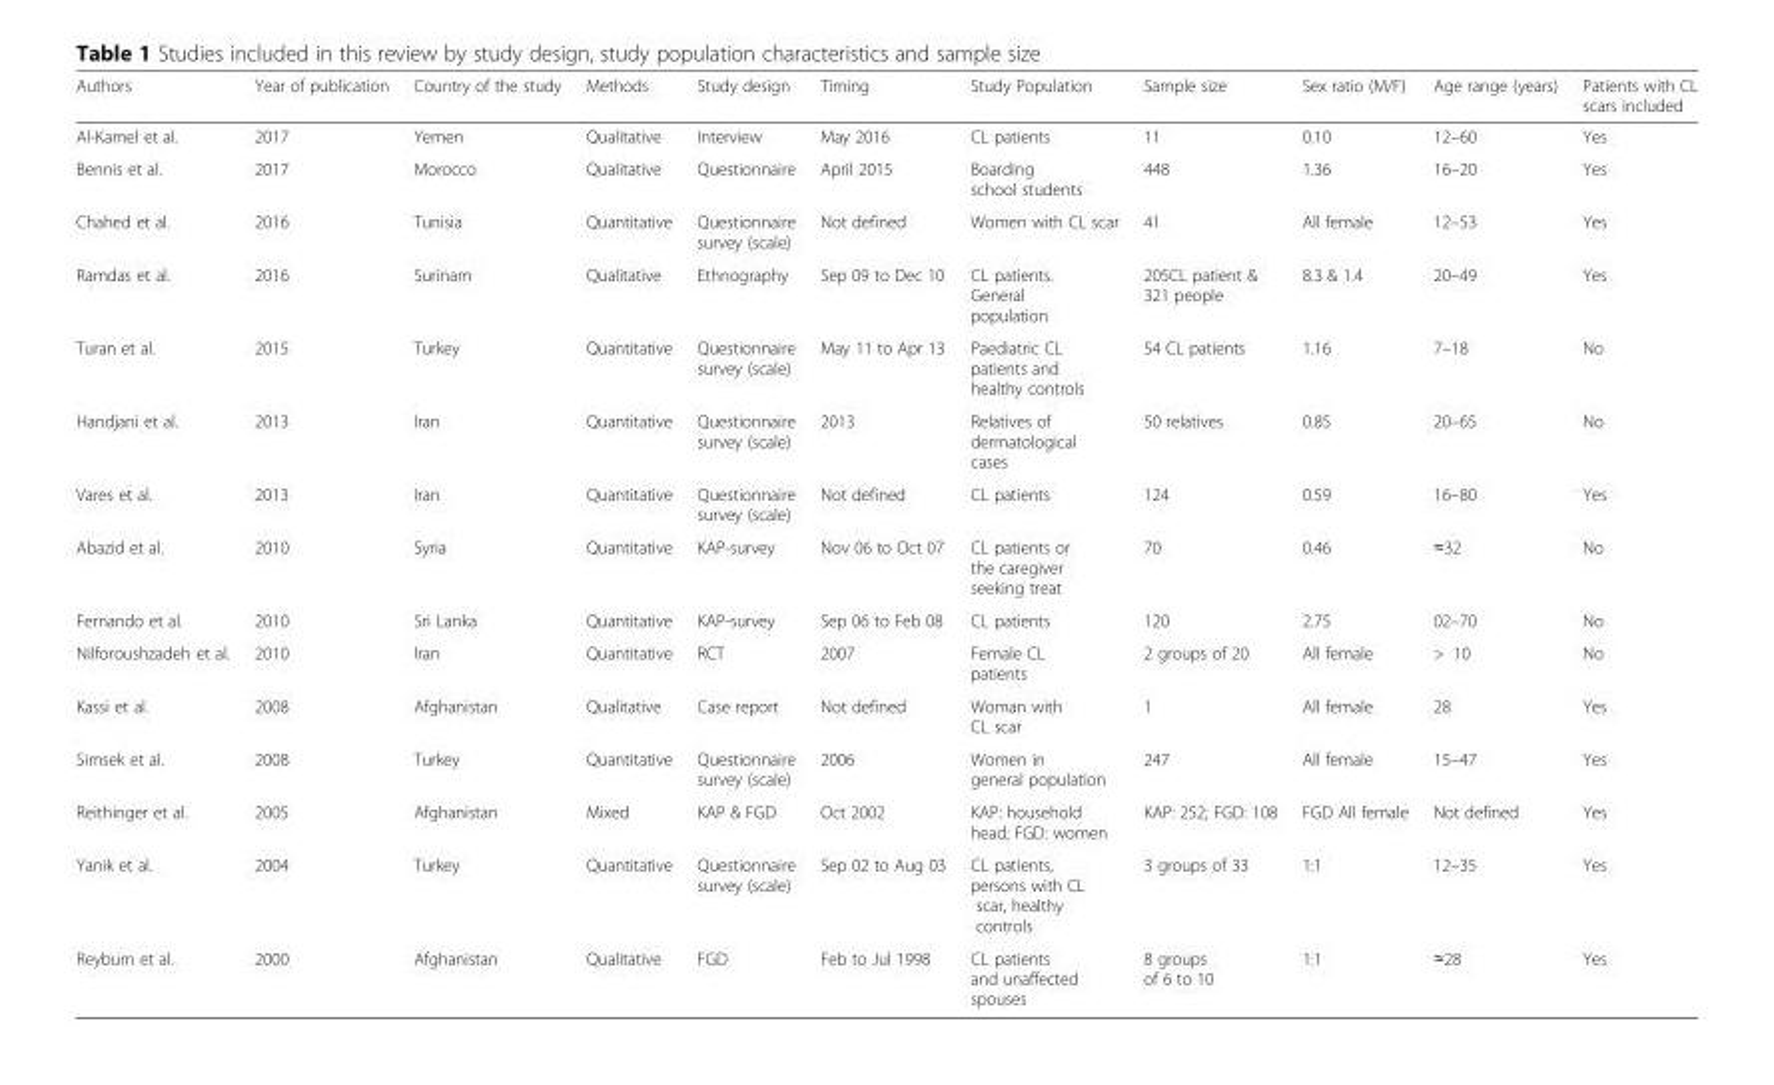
<table><thead><tr><td>Authors</td><td>Year of publication</td><td>Country of the study</td><td>Methods</td><td>Study design</td><td>Timing</td><td>Study Population</td><td>Sample size</td><td>Sex ratio (M/F)</td><td>Age range (years)</td><td>Patients with CL scars included</td></tr></thead><tbody><tr><td>Al-Kamel et al.</td><td>2017</td><td>Yemen</td><td>Qualitative</td><td>Interview</td><td>May 2016</td><td>CL patients</td><td>11</td><td>0.10</td><td>12–60</td><td>Yes</td></tr><tr><td>Bennis et al.</td><td>2017</td><td>Morocco</td><td>Qualitative</td><td>Questionnaire</td><td>April 2015</td><td>Boarding school students</td><td>448</td><td>1.36</td><td>16–20</td><td>Yes</td></tr><tr><td>Chahed et al.</td><td>2016</td><td>Tunisia</td><td>Quantitative</td><td>Questionnaire survey (scale)</td><td>Not defined</td><td>Women with CL scar</td><td>41</td><td>All female</td><td>12–53</td><td>Yes</td></tr><tr><td>Ramdas et al.</td><td>2016</td><td>Surinam</td><td>Qualitative</td><td>Ethnography</td><td>Sep 09 to Dec 10</td><td>CL patients. General population</td><td>205CL patient &amp; 321 people</td><td>8.3 &amp; 1.4</td><td>20–49</td><td>Yes</td></tr><tr><td>Turan et al.</td><td>2015</td><td>Turkey</td><td>Quantitative</td><td>Questionnaire survey (scale)</td><td>May 11 to Apr 13</td><td>Paediatric CL patients and healthy controls</td><td>54 CL patients</td><td>1.16</td><td>7–18</td><td>No</td></tr><tr><td>Handjani et al.</td><td>2013</td><td>Iran</td><td>Quantitative</td><td>Questionnaire survey (scale)</td><td>2013</td><td>Relatives of dermatological cases</td><td>50 relatives</td><td>0.85</td><td>20–65</td><td>No</td></tr><tr><td>Vares et al.</td><td>2013</td><td>Iran</td><td>Quantitative</td><td>Questionnaire survey (scale)</td><td>Not defined</td><td>CL patients</td><td>124</td><td>0.59</td><td>16–80</td><td>Yes</td></tr><tr><td>Abazid et al.</td><td>2010</td><td>Syria</td><td>Quantitative</td><td>KAP-survey</td><td>Nov 06 to Oct 07</td><td>CL patients or the caregiver seeking treat</td><td>70</td><td>0.46</td><td>≈32</td><td>No</td></tr><tr><td>Fernando et al.</td><td>2010</td><td>Sri Lanka</td><td>Quantitative</td><td>KAP-survey</td><td>Sep 06 to Feb 08</td><td>CL patients</td><td>120</td><td>2.75</td><td>02–70</td><td>No</td></tr><tr><td>Nilforoushzadeh et al.</td><td>2010</td><td>Iran</td><td>Quantitative</td><td>RCT</td><td>2007</td><td>Female CL patients</td><td>2 groups of 20</td><td>All female</td><td>&gt; 10</td><td>No</td></tr><tr><td>Kassi et al.</td><td>2008</td><td>Afghanistan</td><td>Qualitative</td><td>Case report</td><td>Not defined</td><td>Woman with CL scar</td><td>1</td><td>All female</td><td>28</td><td>Yes</td></tr><tr><td>Simsek et al.</td><td>2008</td><td>Turkey</td><td>Quantitative</td><td>Questionnaire survey (scale)</td><td>2006</td><td>Women in general population</td><td>247</td><td>All female</td><td>15–47</td><td>Yes</td></tr><tr><td>Reithinger et al.</td><td>2005</td><td>Afghanistan</td><td>Mixed</td><td>KAP &amp; FGD</td><td>Oct 2002</td><td>KAP: household head; FGD: women</td><td>KAP: 252; FGD: 108</td><td>FGD All female</td><td>Not defined</td><td>Yes</td></tr><tr><td>Yanik et al.</td><td>2004</td><td>Turkey</td><td>Quantitative</td><td>Questionnaire survey (scale)</td><td>Sep 02 to Aug 03</td><td>CL patients, persons with CL scar, healthy controls</td><td>3 groups of 33</td><td>1:1</td><td>12–35</td><td>Yes</td></tr><tr><td>Reyburn et al.</td><td>2000</td><td>Afghanistan</td><td>Qualitative</td><td>FGD</td><td>Feb to Jul 1998</td><td>CL patients and unaffected spouses</td><td>8 groups of 6 to 10</td><td>1:1</td><td>≈28</td><td>Yes</td></tr></tbody></table>